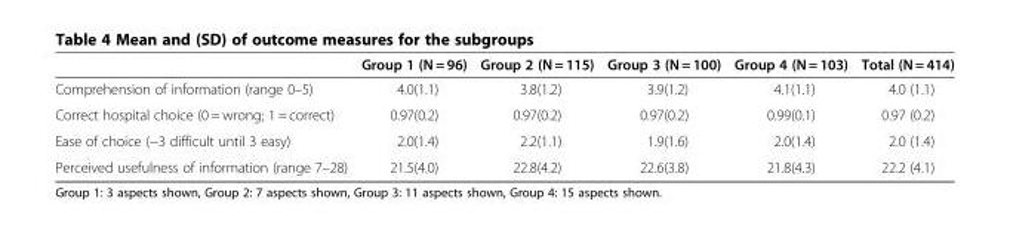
<table><thead><tr><td></td><td>Group 1 (N = 96)</td><td>Group 2 (N = 115)</td><td>Group 3 (N = 100)</td><td>Group 4 (N = 103)</td><td>Total (N = 414)</td></tr></thead><tbody><tr><td>Comprehension of information (range 0–5)</td><td>4.0(1.1)</td><td>3.8(1.2)</td><td>3.9(1.2)</td><td>4.1(1.1)</td><td>4.0 (1.1)</td></tr><tr><td>Correct hospital choice (0 = wrong; 1 = correct)</td><td>0.97(0.2)</td><td>0.97(0.2)</td><td>0.97(0.2)</td><td>0.99(0.1)</td><td>0.97 (0.2)</td></tr><tr><td>Ease of choice (−3 difficult until 3 easy)</td><td>2.0(1.4)</td><td>2.2(1.1)</td><td>1.9(1.6)</td><td>2.0(1.4)</td><td>2.0 (1.4)</td></tr><tr><td>Perceived usefulness of information (range 7–28)</td><td>21.5(4.0)</td><td>22.8(4.2)</td><td>22.6(3.8)</td><td>21.8(4.3)</td><td>22.2 (4.1)</td></tr></tbody></table>